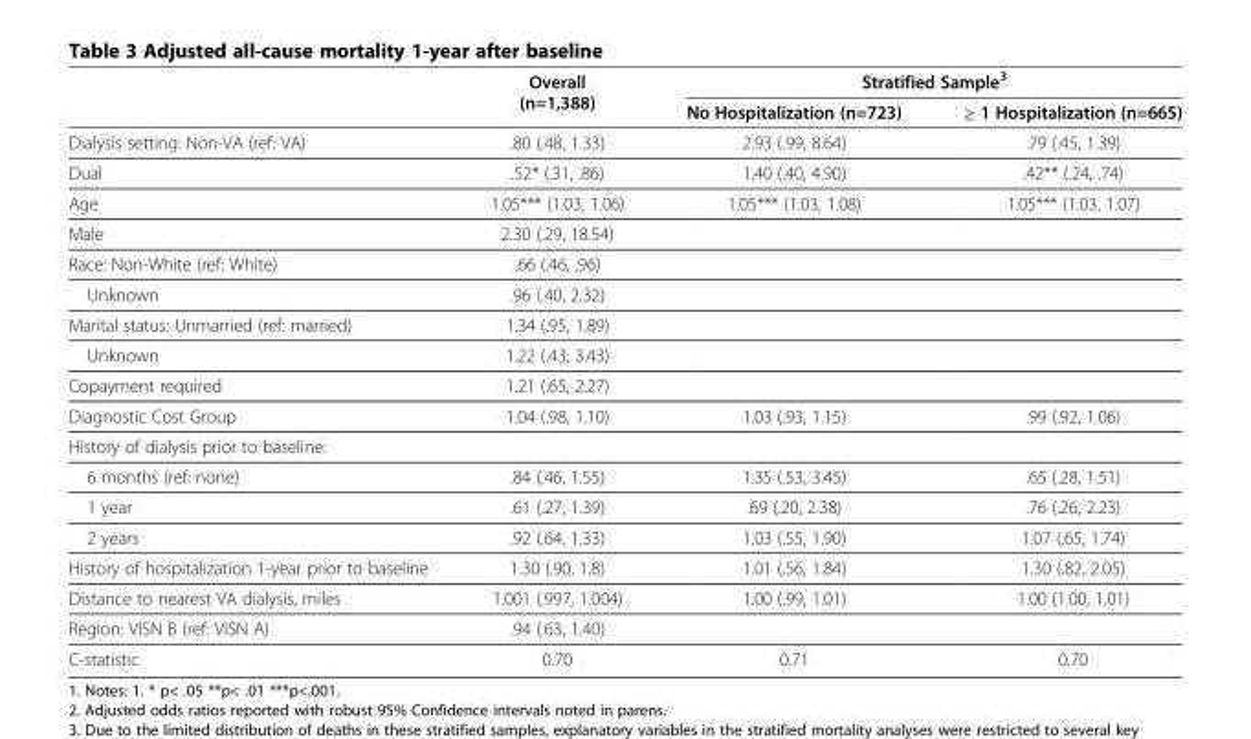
<table><thead><tr><td rowspan="2"></td><td rowspan="2">Overall (n=1,388)</td><td colspan="2">Stratified Sample<sup>3</sup></td></tr><tr><td>No Hospitalization (n=723)</td><td>≥ 1 Hospitalization (n=665)</td></tr></thead><tbody><tr><td>Dialysis setting: Non-VA (ref: VA)</td><td>.80 (.48, 1.33)</td><td>2.93 (.99, 8.64)</td><td>.79 (.45, 1.39)</td></tr><tr><td>Dual</td><td>.52* (.31, .86)</td><td>1.40 (.40, 4.90)</td><td>.42** (.24, .74)</td></tr><tr><td>Age</td><td>1.05*** (1.03, 1.06)</td><td>1.05*** (1.03, 1.08)</td><td>1.05*** (1.03, 1.07)</td></tr><tr><td>Male</td><td>2.30 (.29, 18.54)</td><td></td><td></td></tr><tr><td>Race: Non-White (ref: White)</td><td>.66 (.46, .96)</td><td></td><td></td></tr><tr><td>Unknown</td><td>.96 (.40, 2.32)</td><td></td><td></td></tr><tr><td>Marital status: Unmarried (ref: married)</td><td>1.34 (.95, 1.89)</td><td></td><td></td></tr><tr><td>Unknown</td><td>1.22 (.43, 3.43)</td><td></td><td></td></tr><tr><td>Copayment required</td><td>1.21 (.65, 2.27)</td><td></td><td></td></tr><tr><td>Diagnostic Cost Group</td><td>1.04 (.98, 1.10)</td><td>1.03 (.93, 1.15)</td><td>.99 (.92, 1.06)</td></tr><tr><td colspan="4">History of dialysis prior to baseline:</td></tr><tr><td>6 months (ref: none)</td><td>.84 (.46, 1.55)</td><td>1.35 (.53, 3.45)</td><td>.65 (.28, 1.51)</td></tr><tr><td>1 year</td><td>.61 (.27, 1.39)</td><td>.69 (.20, 2.38)</td><td>.76 (.26, 2.23)</td></tr><tr><td>2 years</td><td>.92 (.64, 1.33)</td><td>1.03 (.55, 1.90)</td><td>1.07 (.65, 1.74)</td></tr><tr><td>History of hospitalization 1-year prior to baseline</td><td>1.30 (.90, 1.8)</td><td>1.01 (.56, 1.84)</td><td>1.30 (.82, 2.05)</td></tr><tr><td>Distance to nearest VA dialysis, miles</td><td>1.001 (.997, 1.004)</td><td>1.00 (.99, 1.01)</td><td>1.00 (1.00, 1.01)</td></tr><tr><td>Region: VISN B (ref: VISN A)</td><td>.94 (.63, 1.40)</td><td></td><td></td></tr><tr><td>C-statistic</td><td>0.70</td><td>0.71</td><td>0.70</td></tr></tbody></table>